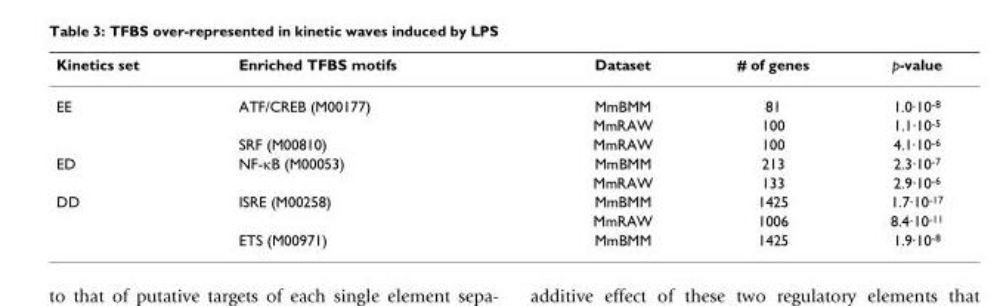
<table><thead><tr><td>Kinetics set</td><td>Enriched TFBS motifs</td><td>Dataset</td><td># of genes</td><td>p-value</td></tr></thead><tbody><tr><td rowspan="3">EE</td><td>ATF/CREB (M00177)</td><td>MmBMM</td><td>81</td><td>1.0·10<sup>-8</sup></td></tr><tr><td></td><td>MmRAW</td><td>100</td><td>1.1·10<sup>-5</sup></td></tr><tr><td>SRF (M00810)</td><td>MmRAW</td><td>100</td><td>4.1·10<sup>-6</sup></td></tr><tr><td rowspan="2">ED</td><td>NF-κB (M00053)</td><td>MmBMM</td><td>213</td><td>2.3·10<sup>-7</sup></td></tr><tr><td></td><td>MmRAW</td><td>133</td><td>2.9·10<sup>-6</sup></td></tr><tr><td rowspan="3">DD</td><td>ISRE (M00258)</td><td>MmBMM</td><td>1425</td><td>1.7·10<sup>-17</sup></td></tr><tr><td></td><td>MmRAW</td><td>1006</td><td>8.4·10<sup>-11</sup></td></tr><tr><td>ETS (M00971)</td><td>MmBMM</td><td>1425</td><td>1.9·10<sup>-8</sup></td></tr></tbody></table>